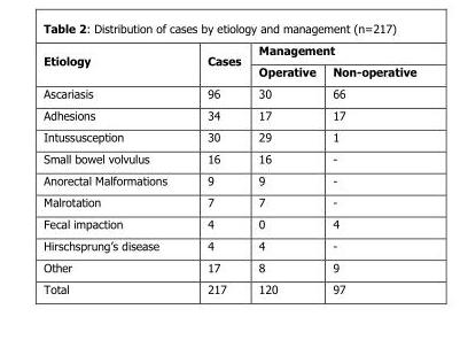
<table><thead><tr><td rowspan="2">Etiology</td><td rowspan="2">Cases</td><td colspan="2">Management</td></tr><tr><td>Operative</td><td>Non-operative</td></tr></thead><tbody><tr><td>Ascariasis</td><td>96</td><td>30</td><td>66</td></tr><tr><td>Adhesions</td><td>34</td><td>17</td><td>17</td></tr><tr><td>Intussusception</td><td>30</td><td>29</td><td>1</td></tr><tr><td>Small bowel volvulus</td><td>16</td><td>16</td><td>-</td></tr><tr><td>Anorectal Malformations</td><td>9</td><td>9</td><td>-</td></tr><tr><td>Malrotation</td><td>7</td><td>7</td><td>-</td></tr><tr><td>Fecal impaction</td><td>4</td><td>0</td><td>4</td></tr><tr><td>Hirschsprung’s disease</td><td>4</td><td>4</td><td>-</td></tr><tr><td>Other</td><td>17</td><td>8</td><td>9</td></tr><tr><td>Total</td><td>217</td><td>120</td><td>97</td></tr></tbody></table>